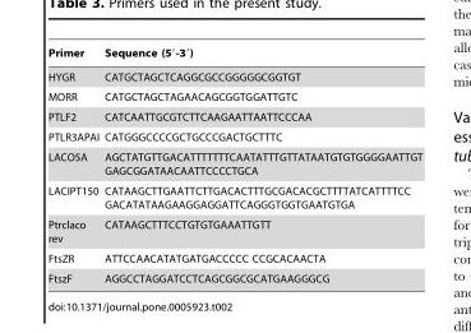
<table><thead><tr><td>Primer</td><td>Sequence (5′-3′)</td></tr></thead><tbody><tr><td>HYGR</td><td>CATGCTAGCTCAGGCGCCGGGGGCGGTGT</td></tr><tr><td>MORR</td><td>CATGCTAGCTAGAACAGCGGTGGATTGTC</td></tr><tr><td>PTLF2</td><td>CATCAATTGCGTCTTCAAGAATTAATTCCCAA</td></tr><tr><td>PTLR3APAI</td><td>CATGGGCCCCGCTGCCCGACTGCTTTC</td></tr><tr><td>LACO5A</td><td>AGCTATGTTGACATTTTTTTCAATATTTGTTATAATGTGTGGGGAATTGT GAGCGGATAACAATTCCCCTGCA</td></tr><tr><td>LACIPT150</td><td>CATAAGCTTGAATTCTTGACACTTTGCGACACGCTTTTATCATTTTCC GACATATAAGAAGGAGGATTCAGGGTGGTGAATGTGA</td></tr><tr><td>Ptrclaco rev</td><td>CATAAGCTTTCCTGTGTGAAATTGTT</td></tr><tr><td>FtsZR</td><td>ATTCCAACATATGATGACCCCC CCGCACAACTA</td></tr><tr><td>FtszF</td><td>AGGCCTAGGATCCTCAGCGGCGCATGAAGGGCG</td></tr></tbody></table>